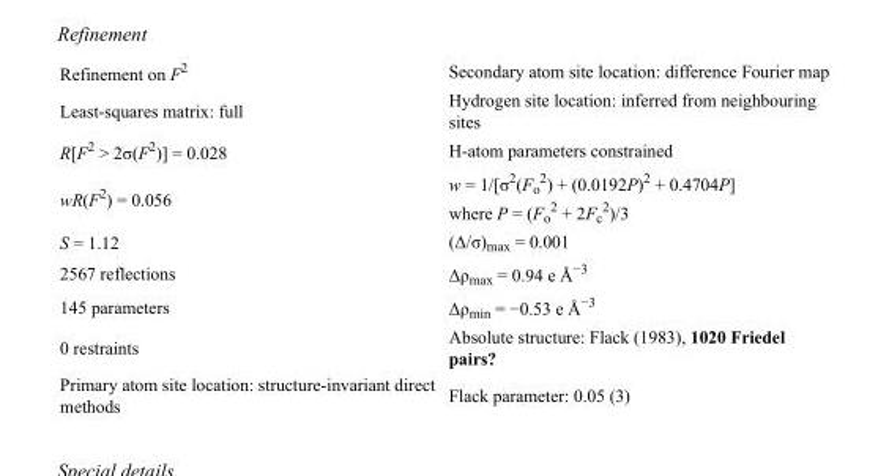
<table><tbody><tr><td>Refinement on F<sup>2</sup></td><td>Secondary atom site location: difference Fourier map</td></tr><tr><td>Least-squares matrix: full</td><td>Hydrogen site location: inferred from neighbouring sites</td></tr><tr><td>R[F<sup>2</sup> &gt; 2σ(F<sup>2</sup>)] = 0.028</td><td>H-atom parameters constrained</td></tr><tr><td>wR(F<sup>2</sup>) = 0.056</td><td>w = 1/[σ<sup>2</sup>(F<sub>o</sub> <sup>2</sup>) + (0.0192P)<sup>2</sup> + 0.4704P] where P = (F<sub>o</sub> <sup>2</sup> + 2F<sub>c</sub> <sup>2</sup>)/3</td></tr><tr><td>S = 1.12</td><td>(Δ/σ)<sub>max</sub> = 0.001</td></tr><tr><td>2567 reflections</td><td>Δρ<sub>max</sub> = 0.94 e Å<sup>−3</sup></td></tr><tr><td>145 parameters</td><td>Δρ<sub>min</sub> = −0.53 e Å<sup>−3</sup></td></tr><tr><td>0 restraints</td><td>Absolute structure: Flack (1983), 1020 Friedel pairs?</td></tr><tr><td>Primary atom site location: structure-invariant direct methods</td><td>Flack parameter: 0.05 (3)</td></tr></tbody></table>